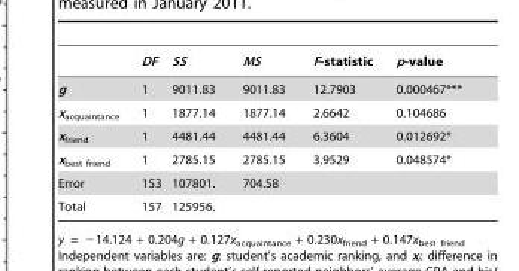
<table><thead><tr><td></td><td>DF</td><td>SS</td><td>MS</td><td>F-statistic</td><td>p-value</td></tr></thead><tbody><tr><td>g</td><td>1</td><td>9011.83</td><td>9011.83</td><td>12.7903</td><td>0.000467***</td></tr><tr><td>x<sub>acquaintance</sub></td><td>1</td><td>1877.14</td><td>1877.14</td><td>2.6642</td><td>0.104686</td></tr><tr><td>x<sub>friend</sub></td><td>1</td><td>4481.44</td><td>4481.44</td><td>6.3604</td><td>0.012692*</td></tr><tr><td>x<sub>best friend</sub></td><td>1</td><td>2785.15</td><td>2785.15</td><td>3.9529</td><td>0.048574*</td></tr><tr><td>Error</td><td>153</td><td>107801.</td><td>704.58</td><td></td><td></td></tr><tr><td>Total</td><td>157</td><td>125956.</td><td></td><td></td><td></td></tr></tbody></table>